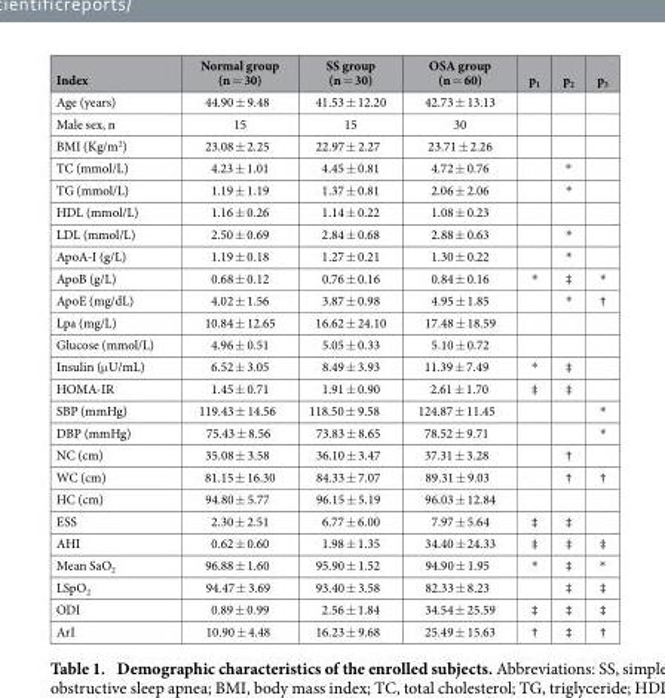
<table><thead><tr><td>Index</td><td>Normal group (n = 30)</td><td>SS group (n = 30)</td><td>OSA group (n = 60)</td><td>p<sub>1</sub></td><td>p<sub>2</sub></td><td>p<sub>3</sub></td></tr></thead><tbody><tr><td>Age (years)</td><td>44.90 ± 9.48</td><td>41.53 ± 12.20</td><td>42.73 ± 13.13</td><td></td><td></td><td></td></tr><tr><td>Male sex, n</td><td>15</td><td>15</td><td>30</td><td></td><td></td><td></td></tr><tr><td>BMI (Kg/m<sup>2</sup>)</td><td>23.08 ± 2.25</td><td>22.97 ± 2.27</td><td>23.71 ± 2.26</td><td></td><td></td><td></td></tr><tr><td>TC (mmol/L)</td><td>4.23 ± 1.01</td><td>4.45 ± 0.81</td><td>4.72 ± 0.76</td><td></td><td>*</td><td></td></tr><tr><td>TG (mmol/L)</td><td>1.19 ± 1.19</td><td>1.37 ± 0.81</td><td>2.06 ± 2.06</td><td></td><td>*</td><td></td></tr><tr><td>HDL (mmol/L)</td><td>1.16 ± 0.26</td><td>1.14 ± 0.22</td><td>1.08 ± 0.23</td><td></td><td></td><td></td></tr><tr><td>LDL (mmol/L)</td><td>2.50 ± 0.69</td><td>2.84 ± 0.68</td><td>2.88 ± 0.63</td><td></td><td>*</td><td></td></tr><tr><td>ApoA-I (g/L)</td><td>1.19 ± 0.18</td><td>1.27 ± 0.21</td><td>1.30 ± 0.22</td><td></td><td>*</td><td></td></tr><tr><td>ApoB (g/L)</td><td>0.68 ± 0.12</td><td>0.76 ± 0.16</td><td>0.84 ± 0.16</td><td>*</td><td>‡</td><td>*</td></tr><tr><td>ApoE (mg/dL)</td><td>4.02 ± 1.56</td><td>3.87 ± 0.98</td><td>4.95 ± 1.85</td><td></td><td>*</td><td>†</td></tr><tr><td>Lpa (mg/L)</td><td>10.84 ± 12.65</td><td>16.62 ± 24.10</td><td>17.48 ± 18.59</td><td></td><td></td><td></td></tr><tr><td>Glucose (mmol/L)</td><td>4.96 ± 0.51</td><td>5.05 ± 0.33</td><td>5.10 ± 0.72</td><td></td><td></td><td></td></tr><tr><td>Insulin (μ U/mL)</td><td>6.52 ± 3.05</td><td>8.49 ± 3.93</td><td>11.39 ± 7.49</td><td>*</td><td>‡</td><td></td></tr><tr><td>HOMA-IR</td><td>1.45 ± 0.71</td><td>1.91 ± 0.90</td><td>2.61 ± 1.70</td><td>‡</td><td>‡</td><td></td></tr><tr><td>SBP (mmHg)</td><td>119.43 ± 14.56</td><td>118.50 ± 9.58</td><td>124.87 ± 11.45</td><td></td><td></td><td>*</td></tr><tr><td>DBP (mmHg)</td><td>75.43 ± 8.56</td><td>73.83 ± 8.65</td><td>78.52 ± 9.71</td><td></td><td></td><td>*</td></tr><tr><td>NC (cm)</td><td>35.08 ± 3.58</td><td>36.10 ± 3.47</td><td>37.31 ± 3.28</td><td></td><td>†</td><td></td></tr><tr><td>WC (cm)</td><td>81.15 ± 16.30</td><td>84.33 ± 7.07</td><td>89.31 ± 9.03</td><td></td><td>†</td><td>†</td></tr><tr><td>HC (cm)</td><td>94.80 ± 5.77</td><td>96.15 ± 5.19</td><td>96.03 ± 12.84</td><td></td><td></td><td></td></tr><tr><td>ESS</td><td>2.30 ± 2.51</td><td>6.77 ± 6.00</td><td>7.97 ± 5.64</td><td>‡</td><td>‡</td><td></td></tr><tr><td>AHI</td><td>0.62 ± 0.60</td><td>1.98 ± 1.35</td><td>34.40 ± 24.33</td><td>‡</td><td>‡</td><td>‡</td></tr><tr><td>Mean SaO<sub>2</sub></td><td>96.88 ± 1.60</td><td>95.90 ± 1.52</td><td>94.90 ± 1.95</td><td>*</td><td>‡</td><td>*</td></tr><tr><td>LSpO<sub>2</sub></td><td>94.47 ± 3.69</td><td>93.40 ± 3.58</td><td>82.33 ± 8.23</td><td></td><td>‡</td><td>‡</td></tr><tr><td>ODI</td><td>0.89 ± 0.99</td><td>2.56 ± 1.84</td><td>34.54 ± 25.59</td><td>‡</td><td>‡</td><td>‡</td></tr><tr><td>ArI</td><td>10.90 ± 4.48</td><td>16.23 ± 9.68</td><td>25.49 ± 15.63</td><td>†</td><td>‡</td><td>†</td></tr></tbody></table>